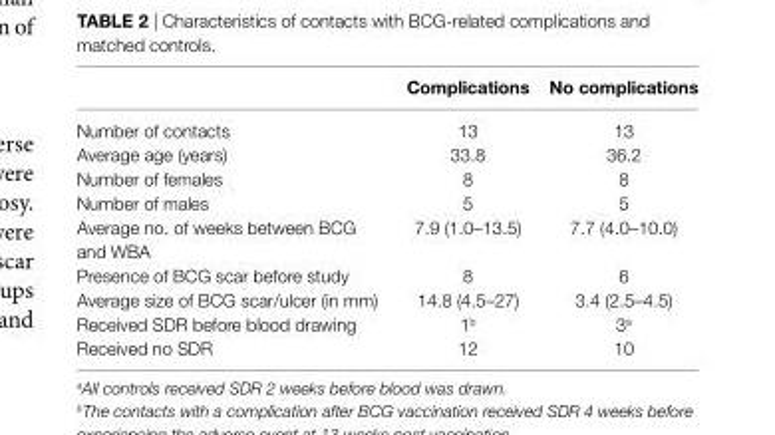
<table><thead><tr><td></td><td>Complications</td><td>no complications</td></tr></thead><tbody><tr><td>Number of contacts</td><td>13</td><td>13</td></tr><tr><td>Average age (years)</td><td>33.8</td><td>36.2</td></tr><tr><td>Number of females</td><td>8</td><td>8</td></tr><tr><td>Number of males</td><td>5</td><td>5</td></tr><tr><td>Average no. of weeks between BCG and WBA</td><td>7.9 (1.0–13.5)</td><td>7.7 (4.0–10.0)</td></tr><tr><td>Presence of BCG scar before study</td><td>8</td><td>6</td></tr><tr><td>Average size of BCG scar/ulcer (in mm)</td><td>14.8 (4.5–27)</td><td>3.4 (2.5–4.5)</td></tr><tr><td>Received SDR before blood drawing</td><td>1<sup>b</sup></td><td>3<sup>a</sup></td></tr><tr><td>Received no SDR</td><td>12</td><td>10</td></tr></tbody></table>